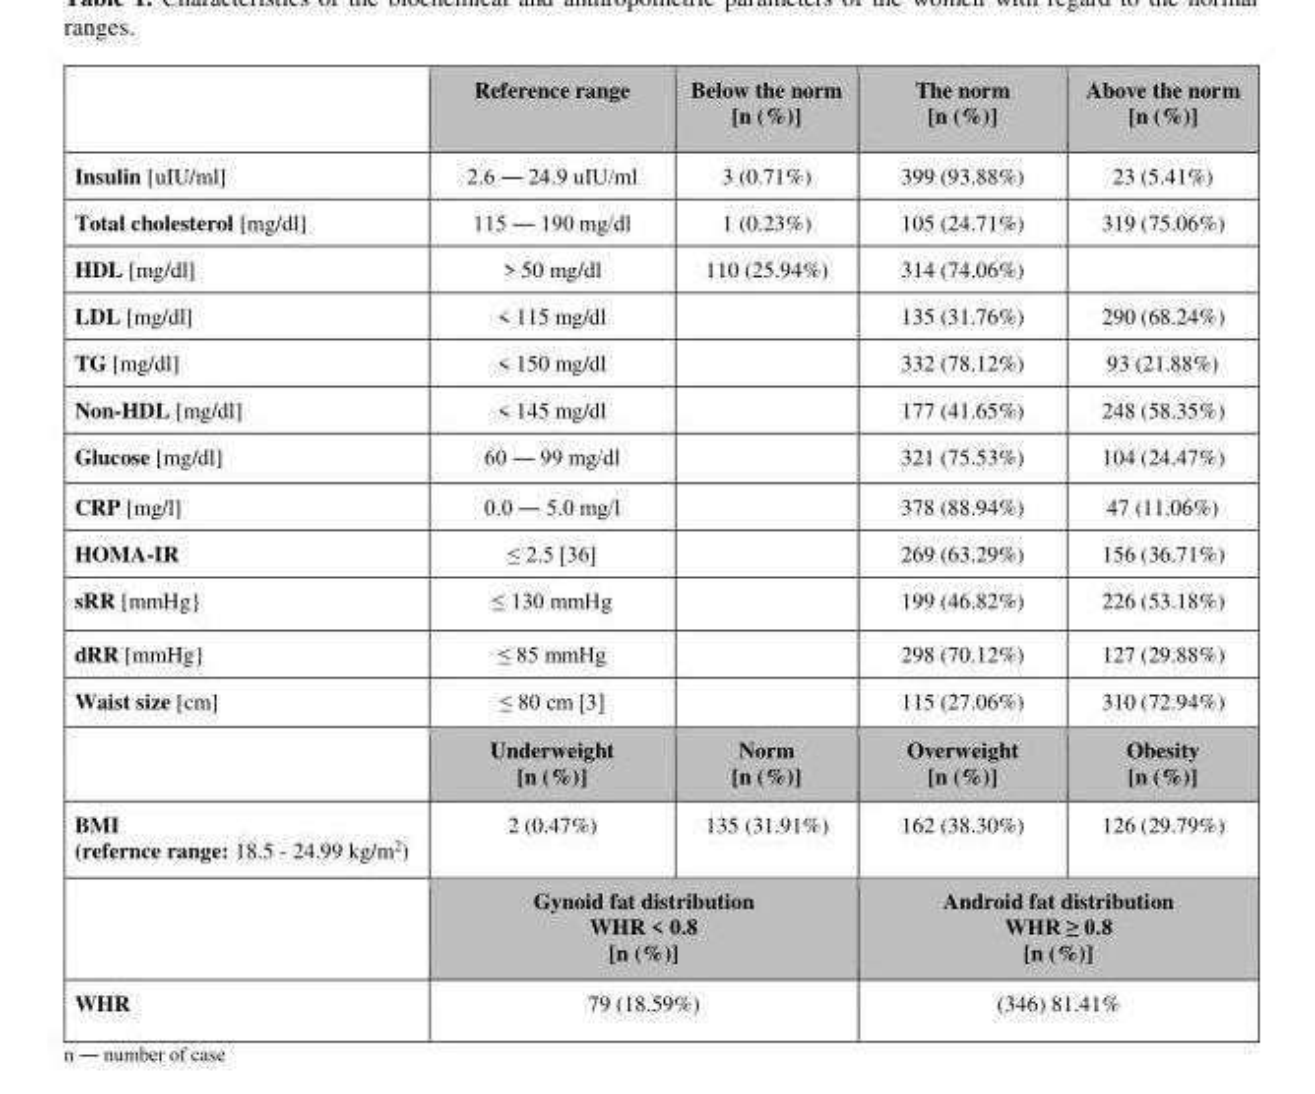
<table><thead><tr><td></td><td>Reference range</td><td>Below the norm [n (%)]</td><td>The norm [n (%)]</td><td>Above the norm [n (%)]</td></tr></thead><tbody><tr><td>Insulin [uIU/ml]</td><td>2.6 ― 24.9 uIU/ml</td><td>3 (0.71%)</td><td>399 (93.88%)</td><td>23 (5.41%)</td></tr><tr><td>Total cholesterol [mg/dl]</td><td>115 ― 190 mg/dl</td><td>1 (0.23%)</td><td>105 (24.71%)</td><td>319 (75.06%)</td></tr><tr><td>HDL [mg/dl]</td><td>&gt; 50 mg/dl</td><td>110 (25.94%)</td><td>314 (74.06%)</td><td></td></tr><tr><td>LDL [mg/dl]</td><td>&lt; 115 mg/dl</td><td></td><td>135 (31.76%)</td><td>290 (68.24%)</td></tr><tr><td>TG [mg/dl]</td><td>&lt; 150 mg/dl</td><td></td><td>332 (78.12%)</td><td>93 (21.88%)</td></tr><tr><td>Non-HDL [mg/dl]</td><td>&lt; 145 mg/dl</td><td></td><td>177 (41.65%)</td><td>248 (58.35%)</td></tr><tr><td>Glucose [mg/dl]</td><td>60 ― 99 mg/dl</td><td></td><td>321 (75.53%)</td><td>104 (24.47%)</td></tr><tr><td>CRP [mg/l]</td><td>0.0 ― 5.0 mg/l</td><td></td><td>378 (88.94%)</td><td>47 (11.06%)</td></tr><tr><td>HOMA-IR</td><td>≤ 2.5 [36]</td><td></td><td>269 (63.29%)</td><td>156 (36.71%)</td></tr><tr><td>sRR [mmHg}</td><td>≤ 130 mmHg</td><td></td><td>199 (46.82%)</td><td>226 (53.18%)</td></tr><tr><td>dRR [mmHg}</td><td>≤ 85 mmHg</td><td></td><td>298 (70.12%)</td><td>127 (29.88%)</td></tr><tr><td rowspan="2">Waist size [cm]</td><td>≤ 80 cm [3]</td><td></td><td>115 (27.06%)</td><td>310 (72.94%)</td></tr><tr><td>Underweight [n (%)]</td><td>Norm [n (%)]</td><td>Overweight [n (%)]</td><td>Obesity [n (%)]</td></tr><tr><td rowspan="2">BMI (refernce range: 18.5 - 24.99 kg/m<sup>2</sup>)</td><td>2 (0.47%)</td><td>135 (31.91%)</td><td>162 (38.30%)</td><td>126 (29.79%)</td></tr><tr><td colspan="2">Gynoid fat distribution WHR &lt; 0.8 [n (%)]</td><td colspan="2">Android fat distribution WHR ≥ 0.8 [n (%)]</td></tr><tr><td>WHR</td><td colspan="2">79 (18.59%)</td><td colspan="2">(346) 81.41%</td></tr></tbody></table>